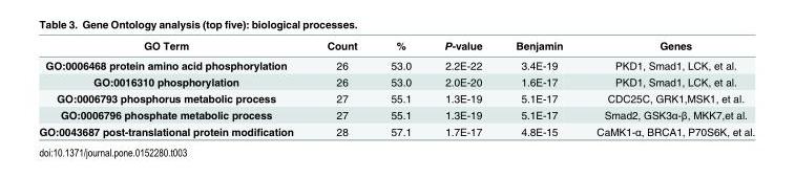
<table><thead><tr><td>GO Term</td><td>Count</td><td>%</td><td>P-value</td><td>Benjamin</td><td>Genes</td></tr></thead><tbody><tr><td>GO:0006468 protein amino acid phosphorylation</td><td>26</td><td>53.0</td><td>2.2E-22</td><td>3.4E-19</td><td>PKD1, Smad1, LCK, et al.</td></tr><tr><td>GO:0016310 phosphorylation</td><td>26</td><td>53.0</td><td>2.0E-20</td><td>1.6E-17</td><td>PKD1, Smad1, LCK, et al.</td></tr><tr><td>GO:0006793 phosphorus metabolic process</td><td>27</td><td>55.1</td><td>1.3E-19</td><td>5.1E-17</td><td>CDC25C, GRK1,MSK1, et al.</td></tr><tr><td>GO:0006796 phosphate metabolic process</td><td>27</td><td>55.1</td><td>1.3E-19</td><td>5.1E-17</td><td>Smad2, GSK3α-β, MKK7,et al.</td></tr><tr><td>GO:0043687 post-translational protein modification</td><td>28</td><td>57.1</td><td>1.7E-17</td><td>4.8E-15</td><td>CaMK1-α, BRCA1, P70S6K, et al.</td></tr></tbody></table>